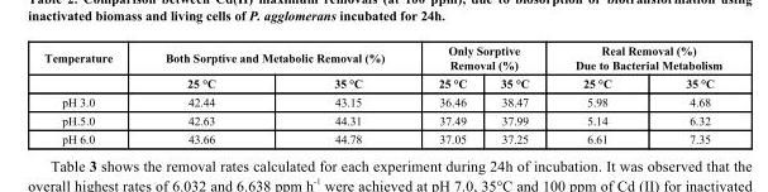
<table><thead><tr><td rowspan="2">Temperature</td><td colspan="2">Both Sorptive and Metabolic Removal (%)</td><td colspan="2">Only Sorptive Removal (%)</td><td colspan="2">Real Removal (%) Due to Bacterial Metabolism</td></tr><tr><td>25 °C</td><td>35 °C</td><td>25 °C</td><td>35 °C</td><td>25 °C</td><td>35 °C</td></tr></thead><tbody><tr><td>pH 3.0</td><td>42.44</td><td>43.15</td><td>36.46</td><td>38.47</td><td>5.98</td><td>4.68</td></tr><tr><td>pH.5.0</td><td>42.63</td><td>44.31</td><td>37.49</td><td>37.99</td><td>5.14</td><td>6.32</td></tr><tr><td>pH 6.0</td><td>43.66</td><td>44.78</td><td>37.05</td><td>37.25</td><td>6.61</td><td>7.35</td></tr></tbody></table>